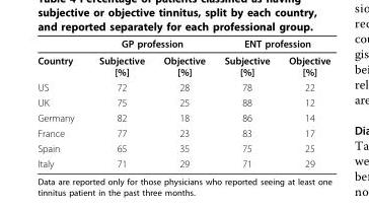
<table><thead><tr><td rowspan="2">Country</td><td colspan="2">GP profession</td><td colspan="2">ENT profession</td></tr><tr><td>Subjective [%]</td><td>Objective [%]</td><td>Subjective [%]</td><td>Objective [%]</td></tr></thead><tbody><tr><td>US</td><td>72</td><td>28</td><td>78</td><td>22</td></tr><tr><td>UK</td><td>75</td><td>25</td><td>88</td><td>12</td></tr><tr><td>Germany</td><td>82</td><td>18</td><td>86</td><td>14</td></tr><tr><td>France</td><td>77</td><td>23</td><td>83</td><td>17</td></tr><tr><td>Spain</td><td>65</td><td>35</td><td>75</td><td>25</td></tr><tr><td>Italy</td><td>71</td><td>29</td><td>71</td><td>29</td></tr></tbody></table>